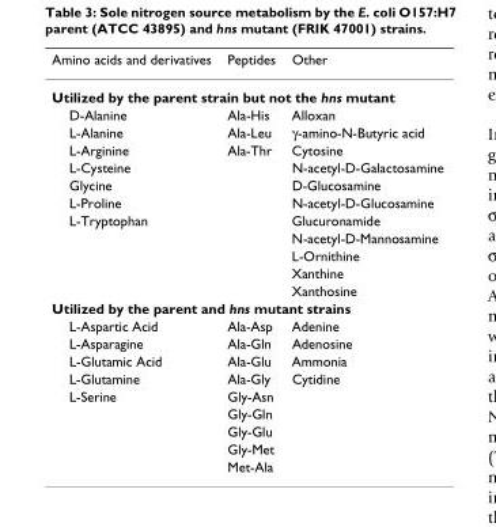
<table><thead><tr><td>Amino acids and derivatives</td><td>Peptides</td><td>Other</td></tr></thead><tbody><tr><td colspan="3">Utilized by the parent strain but not the hns mutant</td></tr><tr><td>D-Alanine</td><td>Ala-His</td><td>Alloxan</td></tr><tr><td>L-Alanine</td><td>Ala-Leu</td><td>γ-amino-N-Butyric acid</td></tr><tr><td>L-Arginine</td><td>Ala-Thr</td><td>Cytosine</td></tr><tr><td>L-Cysteine</td><td></td><td>N-acetyl-D-Galactosamine</td></tr><tr><td>Glycine</td><td></td><td>D-Glucosamine</td></tr><tr><td>L-Proline</td><td></td><td>N-acetyl-D-Glucosamine</td></tr><tr><td rowspan="5">L-Tryptophan</td><td></td><td>Glucuronamide</td></tr><tr><td></td><td>N-acetyl-D-Mannosamine</td></tr><tr><td></td><td>L-Ornithine</td></tr><tr><td></td><td>Xanthine</td></tr><tr><td></td><td>Xanthosine</td></tr><tr><td colspan="3">Utilized by the parent and hns mutant strains</td></tr><tr><td>L-Aspartic Acid</td><td>Ala-Asp</td><td>Adenine</td></tr><tr><td>L-Asparagine</td><td>Ala-Gln</td><td>Adenosine</td></tr><tr><td>L-Glutamic Acid</td><td>Ala-Glu</td><td>Ammonia</td></tr><tr><td>L-Glutamine</td><td>Ala-Gly</td><td>Cytidine</td></tr><tr><td rowspan="5">L-Serine</td><td>Gly-Asn</td><td></td></tr><tr><td>Gly-Gln</td><td></td></tr><tr><td>Gly-Glu</td><td></td></tr><tr><td>Gly-Met</td><td></td></tr><tr><td>Met-Ala</td><td></td></tr></tbody></table>